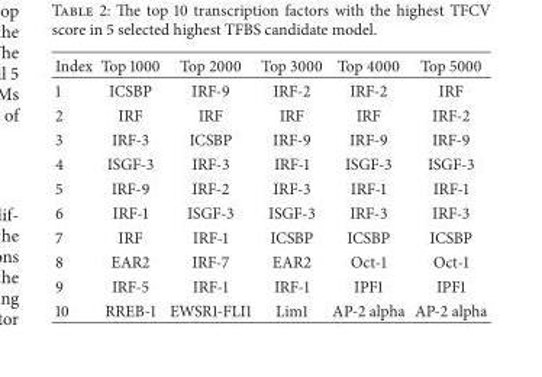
<table><thead><tr><td>Index</td><td>Top 1000</td><td>Top 2000</td><td>Top 3000</td><td>Top 4000</td><td>Top 5000</td></tr></thead><tbody><tr><td>1</td><td>ICSBP</td><td>IRF-9</td><td>IRF-2</td><td>IRF-2</td><td>IRF</td></tr><tr><td>2</td><td>IRF</td><td>IRF</td><td>IRF</td><td>IRF</td><td>IRF-2</td></tr><tr><td>3</td><td>IRF-3</td><td>ICSBP</td><td>IRF-9</td><td>IRF-9</td><td>IRF-9</td></tr><tr><td>4</td><td>ISGF-3</td><td>IRF-3</td><td>IRF-1</td><td>ISGF-3</td><td>ISGF-3</td></tr><tr><td>5</td><td>IRF-9</td><td>IRF-2</td><td>IRF-3</td><td>IRF-1</td><td>IRF-1</td></tr><tr><td>6</td><td>IRF-1</td><td>ISGF-3</td><td>ISGF-3</td><td>IRF-3</td><td>IRF-3</td></tr><tr><td>7</td><td>IRF</td><td>IRF-1</td><td>ICSBP</td><td>ICSBP</td><td>ICSBP</td></tr><tr><td>8</td><td>EAR2</td><td>IRF-7</td><td>EAR2</td><td>Oct-1</td><td>Oct-1</td></tr><tr><td>9</td><td>IRF-5</td><td>IRF-1</td><td>IRF-1</td><td>IPF1</td><td>IPF1</td></tr><tr><td>10</td><td>RREB-1</td><td>EWSR1-FLI1</td><td>Lim1</td><td>AP-2 alpha</td><td>AP-2 alpha</td></tr></tbody></table>